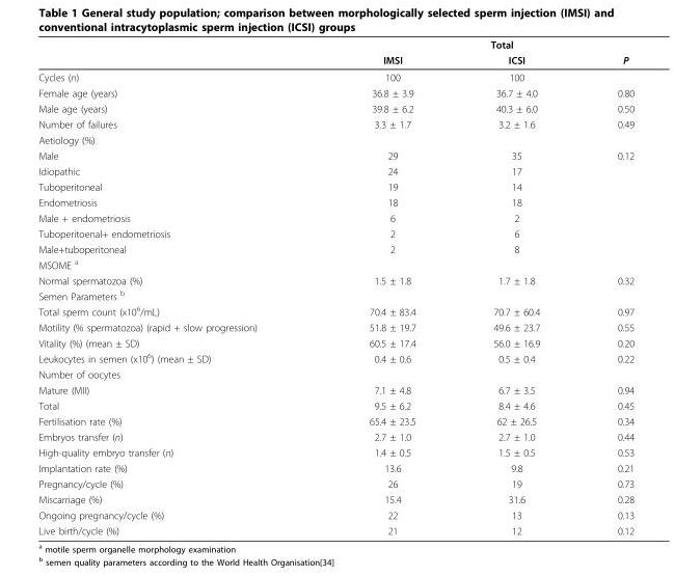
<table><thead><tr><td rowspan="2"></td><td colspan="3">Total</td></tr><tr><td>IMSI</td><td>ICSI</td><td>P</td></tr></thead><tbody><tr><td>Cycles (n)</td><td>100</td><td>100</td><td></td></tr><tr><td>Female age (years)</td><td>36.8 ± 3.9</td><td>36.7 ± 4.0</td><td>0.80</td></tr><tr><td>Male age (years)</td><td>39.8 ± 6.2</td><td>40.3 ± 6.0</td><td>0.50</td></tr><tr><td>Number of failures</td><td>3.3 ± 1.7</td><td>3.2 ± 1.6</td><td>0.49</td></tr><tr><td colspan="4">Aetiology (%)</td></tr><tr><td>Male</td><td>29</td><td>35</td><td>0.12</td></tr><tr><td>Idiopathic</td><td>24</td><td>17</td><td></td></tr><tr><td>Tuboperitoneal</td><td>19</td><td>14</td><td></td></tr><tr><td>Endometriosis</td><td>18</td><td>18</td><td></td></tr><tr><td>Male + endometriosis</td><td>6</td><td>2</td><td></td></tr><tr><td>Tuboperitoenal+ endometriosis</td><td>2</td><td>6</td><td></td></tr><tr><td>Male+tuboperitoneal</td><td>2</td><td>8</td><td></td></tr><tr><td colspan="4">MSOME <sup>a</sup></td></tr><tr><td>Normal spermatozoa (%)</td><td>1.5 ± 1.8</td><td>1.7 ± 1.8</td><td>0.32</td></tr><tr><td colspan="4">Semen Parameters <sup>b</sup></td></tr><tr><td>Total sperm count (x10<sup>6</sup>/mL)</td><td>70.4 ± 83.4</td><td>70.7 ± 60.4</td><td>0.97</td></tr><tr><td>Motility (% spermatozoa) (rapid + slow progression)</td><td>51.8 ± 19.7</td><td>49.6 ± 23.7</td><td>0.55</td></tr><tr><td>Vitality (%) (mean ± SD)</td><td>60.5 ± 17.4</td><td>56.0 ± 16.9</td><td>0.20</td></tr><tr><td>Leukocytes in semen (x10<sup>6</sup>) (mean ± SD)</td><td>0.4 ± 0.6</td><td>0.5 ± 0.4</td><td>0.22</td></tr><tr><td colspan="4">Number of oocytes</td></tr><tr><td>Mature (MII)</td><td>7.1 ± 4.8</td><td>6.7 ± 3.5</td><td>0.94</td></tr><tr><td>Total</td><td>9.5 ± 6.2</td><td>8.4 ± 4.6</td><td>0.45</td></tr><tr><td>Fertilisation rate (%)</td><td>65.4 ± 23.5</td><td>62 ± 26.5</td><td>0.34</td></tr><tr><td>Embryos transfer (n)</td><td>2.7 ± 1.0</td><td>2.7 ± 1.0</td><td>0.44</td></tr><tr><td>High-quality embryo transfer (n)</td><td>1.4 ± 0.5</td><td>1.5 ± 0.5</td><td>0.53</td></tr><tr><td>Implantation rate (%)</td><td>13.6</td><td>9.8</td><td>0.21</td></tr><tr><td>Pregnancy/cycle (%)</td><td>26</td><td>19</td><td>0.73</td></tr><tr><td>Miscarriage (%)</td><td>15.4</td><td>31.6</td><td>0.28</td></tr><tr><td>Ongoing pregnancy/cycle (%)</td><td>22</td><td>13</td><td>0.13</td></tr><tr><td>Live birth/cycle (%)</td><td>21</td><td>12</td><td>0.12</td></tr></tbody></table>